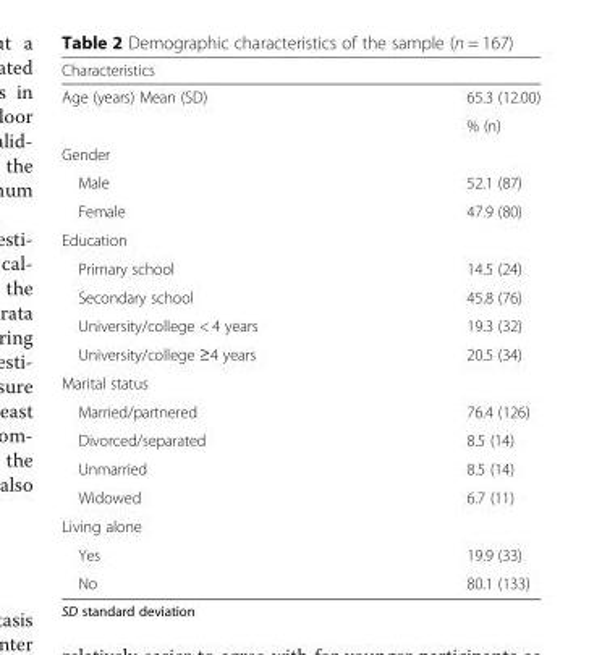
<table><thead><tr><td>Characteristics</td><td></td></tr></thead><tbody><tr><td rowspan="2">Age (years) Mean (SD)</td><td>65.3 (12.00)</td></tr><tr><td>% (n)</td></tr><tr><td colspan="2">Gender</td></tr><tr><td>Male</td><td>52.1 (87)</td></tr><tr><td>Female</td><td>47.9 (80)</td></tr><tr><td colspan="2">Education</td></tr><tr><td>Primary school</td><td>14.5 (24)</td></tr><tr><td>Secondary school</td><td>45.8 (76)</td></tr><tr><td>University/college &lt; 4 years</td><td>19.3 (32)</td></tr><tr><td>University/college ≥4 years</td><td>20.5 (34)</td></tr><tr><td colspan="2">Marital status</td></tr><tr><td>Married/partnered</td><td>76.4 (126)</td></tr><tr><td>Divorced/separated</td><td>8.5 (14)</td></tr><tr><td>Unmarried</td><td>8.5 (14)</td></tr><tr><td>Widowed</td><td>6.7 (11)</td></tr><tr><td colspan="2">Living alone</td></tr><tr><td>Yes</td><td>19.9 (33)</td></tr><tr><td>No</td><td>80.1 (133)</td></tr></tbody></table>